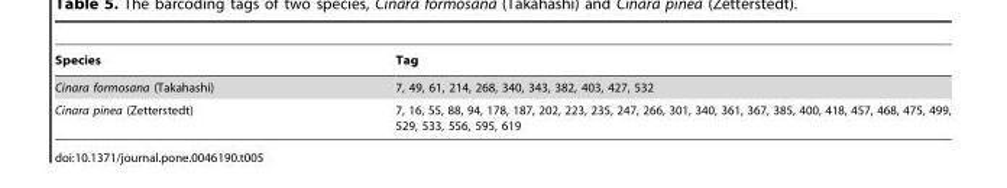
<table><thead><tr><td>Species</td><td>Tag</td></tr></thead><tbody><tr><td>Cinara formosana (Takahashi)</td><td>7, 49, 61, 214, 268, 340, 343, 382, 403, 427, 532</td></tr><tr><td>Cinara pinea (Zetterstedt)</td><td>7, 16, 55, 88, 94, 178, 187, 202, 223, 235, 247, 266, 301, 340, 361, 367, 385, 400, 418, 457, 468, 475, 499, 529, 533, 556, 595, 619</td></tr></tbody></table>